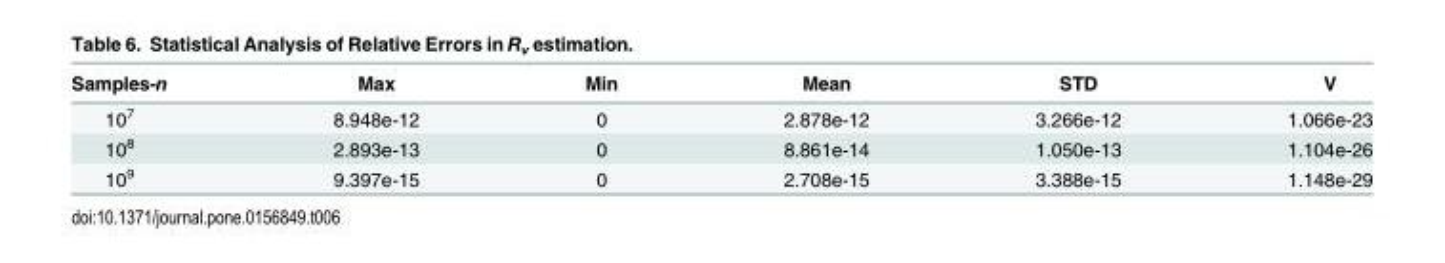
<table><thead><tr><td>Samples-n</td><td>Max</td><td>Min</td><td>Mean</td><td>STD</td><td>V</td></tr></thead><tbody><tr><td>10<sup>7</sup></td><td>8.948e-12</td><td>0</td><td>2.878e-12</td><td>3.266e-12</td><td>1.066e-23</td></tr><tr><td>10<sup>8</sup></td><td>2.893e-13</td><td>0</td><td>8.861e-14</td><td>1.050e-13</td><td>1.104e-26</td></tr><tr><td>10<sup>9</sup></td><td>9.397e-15</td><td>0</td><td>2.708e-15</td><td>3.388e-15</td><td>1.148e-29</td></tr></tbody></table>